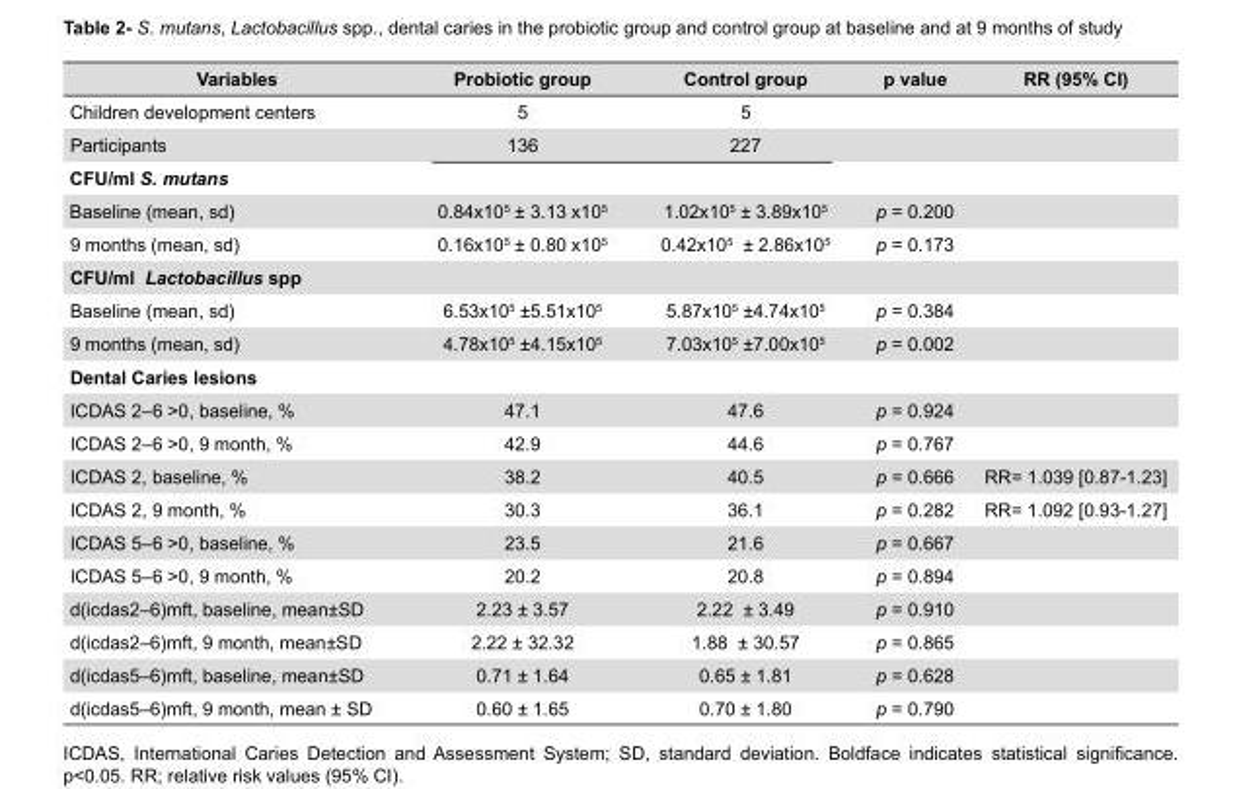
<table><thead><tr><td>Variables</td><td>Probiotic group</td><td>Control group</td><td>p value</td><td>RR (95% CI)</td></tr></thead><tbody><tr><td>Children development centers</td><td>5</td><td>5</td><td></td><td></td></tr><tr><td>Participants</td><td>136</td><td>227</td><td></td><td></td></tr><tr><td colspan="5">CFU/ml S. mutans</td></tr><tr><td>Baseline (mean, sd)</td><td>0.84x10<sup>5</sup> ± 3.13 x10<sup>5</sup></td><td>1.02x10<sup>5</sup> ± 3.89x10<sup>5</sup></td><td>p = 0.200</td><td></td></tr><tr><td>9 months (mean, sd)</td><td>0.16x10<sup>5</sup> ± 0.80 x10<sup>5</sup></td><td>0.42x10<sup>5</sup> ± 2.86x10<sup>5</sup></td><td>p = 0.173</td><td></td></tr><tr><td colspan="5">CFU/ml Lactobacillus spp</td></tr><tr><td>Baseline (mean, sd)</td><td>6.53x10<sup>5</sup> ±5.51x10<sup>5</sup></td><td>5.87x10<sup>5</sup> ±4.74x10<sup>5</sup></td><td>p = 0.384</td><td></td></tr><tr><td>9 months (mean, sd)</td><td>4.78x10<sup>5</sup> ±4.15x10<sup>5</sup></td><td>7.03x10<sup>5</sup> ±7.00x10<sup>5</sup></td><td>p = 0.002</td><td></td></tr><tr><td colspan="5">Dental Caries lesions</td></tr><tr><td>ICDAS 2–6 &gt;0, baseline, %</td><td>47.1</td><td>47.6</td><td>p = 0.924</td><td></td></tr><tr><td>ICDAS 2–6 &gt;0, 9 month, %</td><td>42.9</td><td>44.6</td><td>p = 0.767</td><td></td></tr><tr><td>ICDAS 2, baseline, %</td><td>38.2</td><td>40.5</td><td>p = 0.666</td><td>RR= 1.039 [0.87-1.23]</td></tr><tr><td>ICDAS 2, 9 month, %</td><td>30.3</td><td>36.1</td><td>p = 0.282</td><td>RR= 1.092 [0.93-1.27]</td></tr><tr><td>ICDAS 5–6 &gt;0, baseline, %</td><td>23.5</td><td>21.6</td><td>p = 0.667</td><td></td></tr><tr><td>ICDAS 5–6 &gt;0, 9 month, %</td><td>20.2</td><td>20.8</td><td>p = 0.894</td><td></td></tr><tr><td>d(icdas2–6)mft, baseline, mean±SD</td><td>2.23 ± 3.57</td><td>2.22 ± 3.49</td><td>p = 0.910</td><td></td></tr><tr><td>d(icdas2–6)mft, 9 month, mean±SD</td><td>2.22 ± 32.32</td><td>1.88 ± 30.57</td><td>p = 0.865</td><td></td></tr><tr><td>d(icdas5–6)mft, baseline, mean±SD</td><td>0.71 ± 1.64</td><td>0.65 ± 1.81</td><td>p = 0.628</td><td></td></tr><tr><td>d(icdas5–6)mft, 9 month, mean ± SD</td><td>0.60 ± 1.65</td><td>0.70 ± 1.80</td><td>p = 0.790</td><td></td></tr></tbody></table>